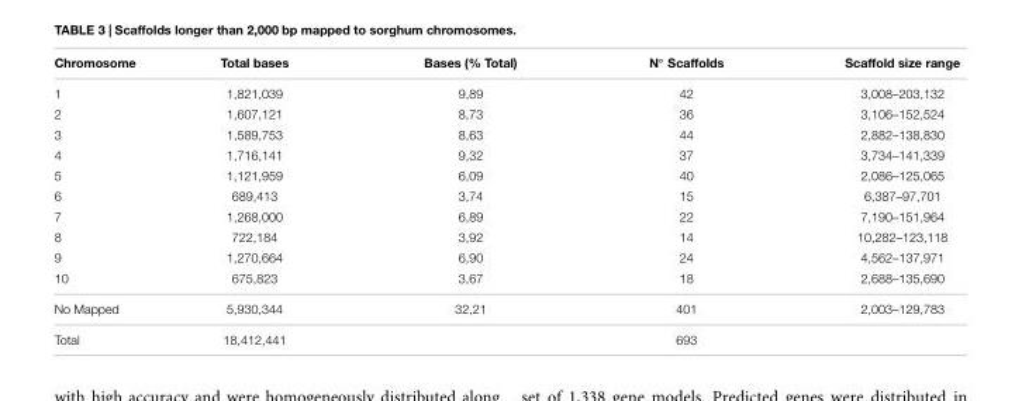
<table><thead><tr><td>Chromosome</td><td>Total bases</td><td>Bases (% Total)</td><td>N◦ Scaffolds</td><td>Scaffold size range</td></tr></thead><tbody><tr><td>1</td><td>1,821,039</td><td>9,89</td><td>42</td><td>3,008–203,132</td></tr><tr><td>2</td><td>1,607,121</td><td>8,73</td><td>36</td><td>3,106–152,524</td></tr><tr><td>3</td><td>1,589,753</td><td>8,63</td><td>44</td><td>2,882–138,830</td></tr><tr><td>4</td><td>1,716,141</td><td>9,32</td><td>37</td><td>3,734–141,339</td></tr><tr><td>5</td><td>1,121,959</td><td>6,09</td><td>40</td><td>2,086–125,065</td></tr><tr><td>6</td><td>689,413</td><td>3,74</td><td>15</td><td>6,387–97,701</td></tr><tr><td>7</td><td>1,268,000</td><td>6,89</td><td>22</td><td>7,190–151,964</td></tr><tr><td>8</td><td>722,184</td><td>3,92</td><td>14</td><td>10,282–123,118</td></tr><tr><td>9</td><td>1,270,664</td><td>6,90</td><td>24</td><td>4,562–137,971</td></tr><tr><td>10</td><td>675,823</td><td>3,67</td><td>18</td><td>2,688–135,690</td></tr><tr><td>No Mapped</td><td>5,930,344</td><td>32,21</td><td>401</td><td>2,003–129,783</td></tr><tr><td>Total</td><td>18,412,441</td><td></td><td>693</td><td></td></tr></tbody></table>